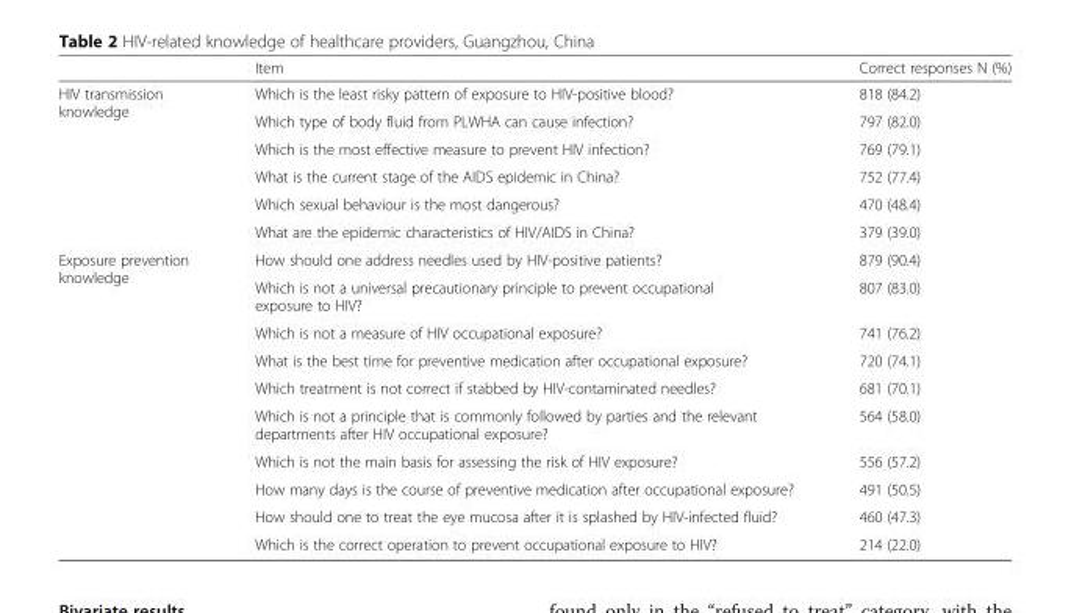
<table><thead><tr><td></td><td>Item</td><td>Correct responses N (%)</td></tr></thead><tbody><tr><td rowspan="6">HIV transmission knowledge</td><td>Which is the least risky pattern of exposure to HIV-positive blood?</td><td>818 (84.2)</td></tr><tr><td>Which type of body fluid from PLWHA can cause infection?</td><td>797 (82.0)</td></tr><tr><td>Which is the most effective measure to prevent HIV infection?</td><td>769 (79.1)</td></tr><tr><td>What is the current stage of the AIDS epidemic in China?</td><td>752 (77.4)</td></tr><tr><td>Which sexual behaviour is the most dangerous?</td><td>470 (48.4)</td></tr><tr><td>What are the epidemic characteristics of HIV/AIDS in China?</td><td>379 (39.0)</td></tr><tr><td rowspan="10">Exposure prevention knowledge</td><td>How should one address needles used by HIV-positive patients?</td><td>879 (90.4)</td></tr><tr><td>Which is not a universal precautionary principle to prevent occupational exposure to HIV?</td><td>807 (83.0)</td></tr><tr><td>Which is not a measure of HIV occupational exposure?</td><td>741 (76.2)</td></tr><tr><td>What is the best time for preventive medication after occupational exposure?</td><td>720 (74.1)</td></tr><tr><td>Which treatment is not correct if stabbed by HIV-contaminated needles?</td><td>681 (70.1)</td></tr><tr><td>Which is not a principle that is commonly followed by parties and the relevant departments after HIV occupational exposure?</td><td>564 (58.0)</td></tr><tr><td>Which is not the main basis for assessing the risk of HIV exposure?</td><td>556 (57.2)</td></tr><tr><td>How many days is the course of preventive medication after occupational exposure?</td><td>491 (50.5)</td></tr><tr><td>How should one to treat the eye mucosa after it is splashed by HIV-infected fluid?</td><td>460 (47.3)</td></tr><tr><td>Which is the correct operation to prevent occupational exposure to HIV?</td><td>214 (22.0)</td></tr></tbody></table>